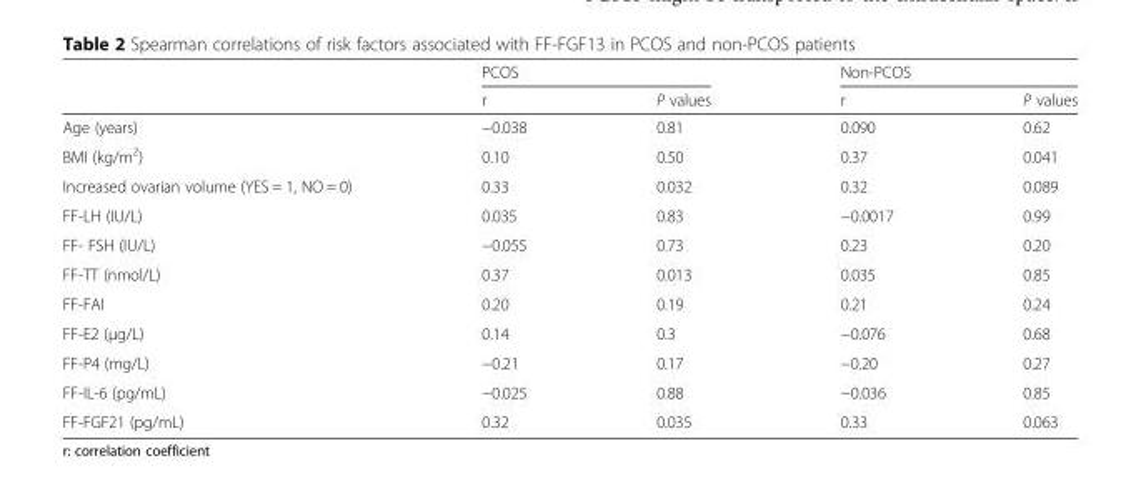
<table><thead><tr><td rowspan="2"></td><td colspan="2">PCOS</td><td colspan="2">Non-PCOS</td></tr><tr><td>r</td><td>P values</td><td>r</td><td>P values</td></tr></thead><tbody><tr><td>Age (years)</td><td>−0.038</td><td>0.81</td><td>0.090</td><td>0.62</td></tr><tr><td>BMI (kg/m<sup>2</sup>)</td><td>0.10</td><td>0.50</td><td>0.37</td><td>0.041</td></tr><tr><td>Increased ovarian volume (YES = 1, NO = 0)</td><td>0.33</td><td>0.032</td><td>0.32</td><td>0.089</td></tr><tr><td>FF-LH (IU/L)</td><td>0.035</td><td>0.83</td><td>−0.0017</td><td>0.99</td></tr><tr><td>FF- FSH (IU/L)</td><td>−0.055</td><td>0.73</td><td>0.23</td><td>0.20</td></tr><tr><td>FF-TT (nmol/L)</td><td>0.37</td><td>0.013</td><td>0.035</td><td>0.85</td></tr><tr><td>FF-FAI</td><td>0.20</td><td>0.19</td><td>0.21</td><td>0.24</td></tr><tr><td>FF-E2 (μg/L)</td><td>0.14</td><td>0.3</td><td>−0.076</td><td>0.68</td></tr><tr><td>FF-P4 (mg/L)</td><td>−0.21</td><td>0.17</td><td>−0.20</td><td>0.27</td></tr><tr><td>FF-IL-6 (pg/mL)</td><td>−0.025</td><td>0.88</td><td>−0.036</td><td>0.85</td></tr><tr><td>FF-FGF21 (pg/mL)</td><td>0.32</td><td>0.035</td><td>0.33</td><td>0.063</td></tr></tbody></table>